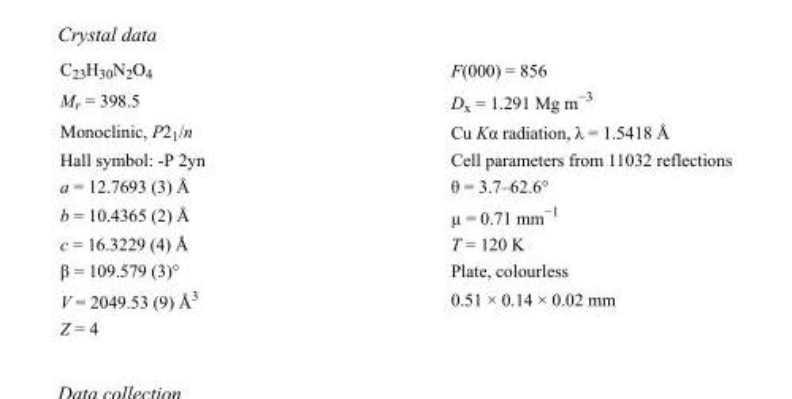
<table><tbody><tr><td>C<sub>23</sub>H<sub>30</sub>N<sub>2</sub>O<sub>4</sub></td><td>F(000) = 856</td></tr><tr><td>M<sub>r</sub> = 398.5</td><td>D<sub>x</sub> = 1.291 Mg m<sup>−3</sup></td></tr><tr><td>Monoclinic, P2<sub>1</sub>/n</td><td>Cu Kα radiation, λ = 1.5418 Å</td></tr><tr><td>Hall symbol: -P 2yn</td><td>Cell parameters from 11032 reflections</td></tr><tr><td>a = 12.7693 (3) Å</td><td>θ = 3.7–62.6°</td></tr><tr><td>b = 10.4365 (2) Å</td><td>µ = 0.71 mm<sup>−1</sup></td></tr><tr><td>c = 16.3229 (4) Å</td><td>T = 120 K</td></tr><tr><td>β = 109.579 (3)°</td><td>Plate, colourless</td></tr><tr><td>V = 2049.53 (9) Å<sup>3</sup></td><td>0.51 × 0.14 × 0.02 mm</td></tr><tr><td>Z = 4</td><td></td></tr></tbody></table>